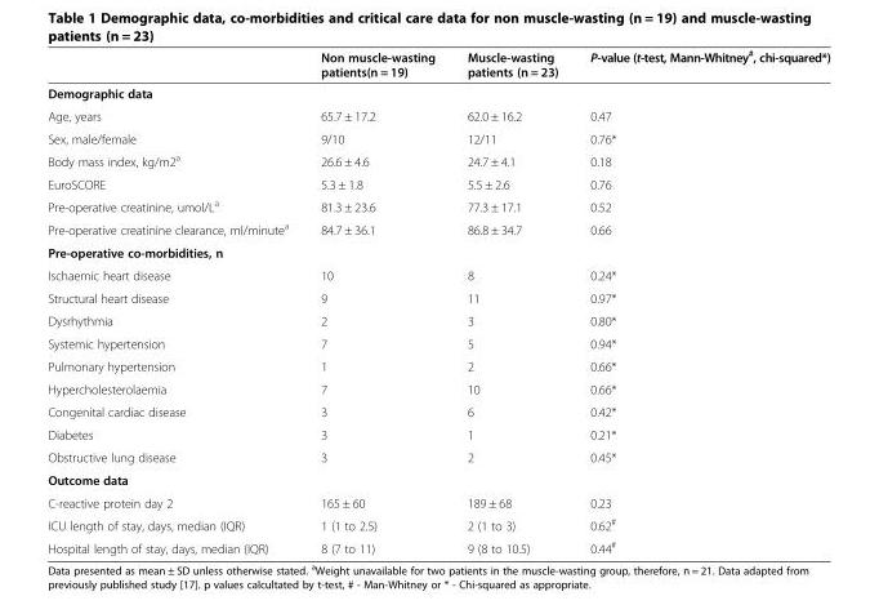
<table><thead><tr><td></td><td>Non muscle-wasting patients(n = 19)</td><td>Muscle-wasting patients (n = 23)</td><td>P-value (t-test, Mann-Whitney<sup>#</sup>, chi-squared*)</td></tr></thead><tbody><tr><td colspan="4">Demographic data</td></tr><tr><td>Age, years</td><td>65.7 ± 17.2</td><td>62.0 ± 16.2</td><td>0.47</td></tr><tr><td>Sex, male/female</td><td>9/10</td><td>12/11</td><td>0.76*</td></tr><tr><td>Body mass index, kg/m2<sup>a</sup></td><td>26.6 ± 4.6</td><td>24.7 ± 4.1</td><td>0.18</td></tr><tr><td>EuroSCORE</td><td>5.3 ± 1.8</td><td>5.5 ± 2.6</td><td>0.76</td></tr><tr><td>Pre-operative creatinine, umol/L<sup>a</sup></td><td>81.3 ± 23.6</td><td>77.3 ± 17.1</td><td>0.52</td></tr><tr><td>Pre-operative creatinine clearance, ml/minute<sup>a</sup></td><td>84.7 ± 36.1</td><td>86.8 ± 34.7</td><td>0.66</td></tr><tr><td colspan="4">Pre-operative co-morbidities, n</td></tr><tr><td>Ischaemic heart disease</td><td>10</td><td>8</td><td>0.24*</td></tr><tr><td>Structural heart disease</td><td>9</td><td>11</td><td>0.97*</td></tr><tr><td>Dysrhythmia</td><td>2</td><td>3</td><td>0.80*</td></tr><tr><td>Systemic hypertension</td><td>7</td><td>5</td><td>0.94*</td></tr><tr><td>Pulmonary hypertension</td><td>1</td><td>2</td><td>0.66*</td></tr><tr><td>Hypercholesterolaemia</td><td>7</td><td>10</td><td>0.66*</td></tr><tr><td>Congenital cardiac disease</td><td>3</td><td>6</td><td>0.42*</td></tr><tr><td>Diabetes</td><td>3</td><td>1</td><td>0.21*</td></tr><tr><td>Obstructive lung disease</td><td>3</td><td>2</td><td>0.45*</td></tr><tr><td colspan="4">Outcome data</td></tr><tr><td>C-reactive protein day 2</td><td>165 ± 60</td><td>189 ± 68</td><td>0.23</td></tr><tr><td>ICU length of stay, days, median (IQR)</td><td>1 (1 to 2.5)</td><td>2 (1 to 3)</td><td>0.62<sup>#</sup></td></tr><tr><td>Hospital length of stay, days, median (IQR)</td><td>8 (7 to 11)</td><td>9 (8 to 10.5)</td><td>0.44<sup>#</sup></td></tr></tbody></table>